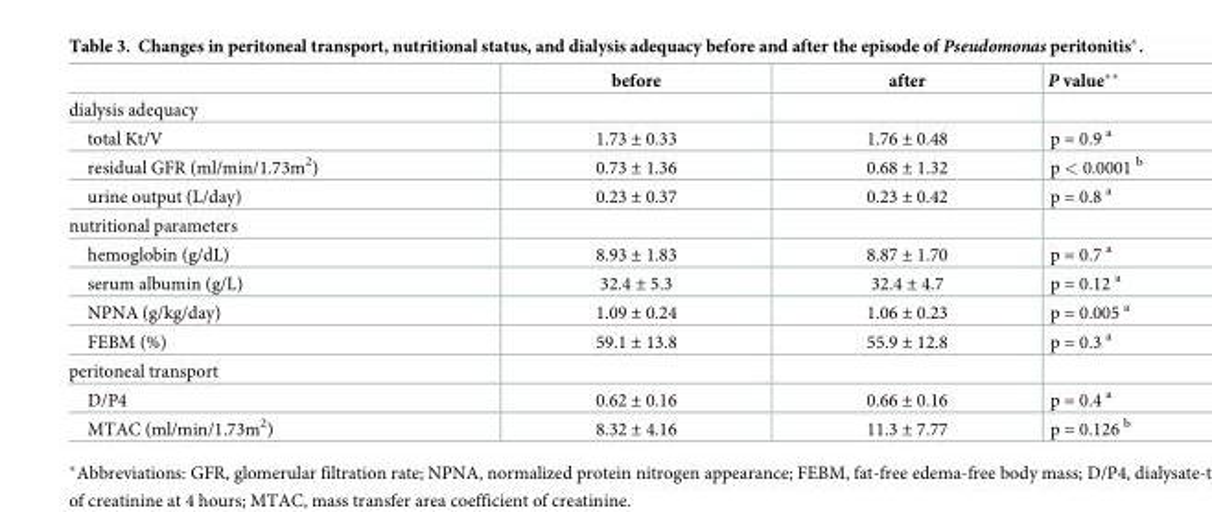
<table><thead><tr><td></td><td>before</td><td>after</td><td>P value**</td></tr></thead><tbody><tr><td colspan="4">dialysis adequacy</td></tr><tr><td>total Kt/V</td><td>1.73 ± 0.33</td><td>1.76 ± 0.48</td><td>p = 0.9 <sup>a</sup></td></tr><tr><td>residual GFR (ml/min/1.73m<sup>2</sup>)</td><td>0.73 ± 1.36</td><td>0.68 ± 1.32</td><td>p &lt; 0.0001 <sup>b</sup></td></tr><tr><td>urine output (L/day)</td><td>0.23 ± 0.37</td><td>0.23 ± 0.42</td><td>p = 0.8 <sup>a</sup></td></tr><tr><td colspan="4">nutritional parameters</td></tr><tr><td>hemoglobin (g/dL)</td><td>8.93 ± 1.83</td><td>8.87 ± 1.70</td><td>p = 0.7 <sup>a</sup></td></tr><tr><td>serum albumin (g/L)</td><td>32.4 ± 5.3</td><td>32.4 ± 4.7</td><td>p = 0.12 <sup>a</sup></td></tr><tr><td>NPNA (g/kg/day)</td><td>1.09 ± 0.24</td><td>1.06 ± 0.23</td><td>p = 0.005 <sup>a</sup></td></tr><tr><td>FEBM (%)</td><td>59.1 ± 13.8</td><td>55.9 ± 12.8</td><td>p = 0.3 <sup>a</sup></td></tr><tr><td colspan="4">peritoneal transport</td></tr><tr><td>D/P4</td><td>0.62 ± 0.16</td><td>0.66 ± 0.16</td><td>p = 0.4 <sup>a</sup></td></tr><tr><td>MTAC (ml/min/1.73m<sup>2</sup>)</td><td>8.32 ± 4.16</td><td>11.3 ± 7.77</td><td>p = 0.126 <sup>b</sup></td></tr></tbody></table>